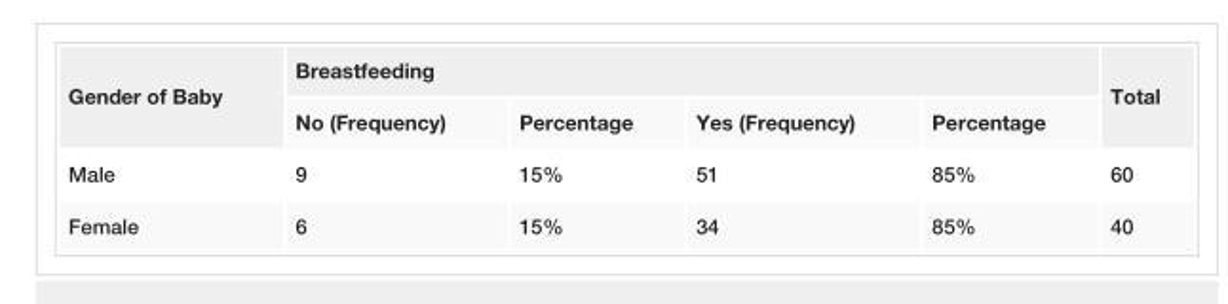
<table><tbody><tr><td rowspan="2">Gender of Baby</td><td colspan="4">Breastfeeding</td><td rowspan="2">Total</td></tr><tr><td>No (Frequency)</td><td>Percentage</td><td>Yes (Frequency)</td><td>Percentage</td></tr><tr><td>Male</td><td>9</td><td>15%</td><td>51</td><td>85%</td><td>60</td></tr><tr><td>Female</td><td>6</td><td>15%</td><td>34</td><td>85%</td><td>40</td></tr></tbody></table>